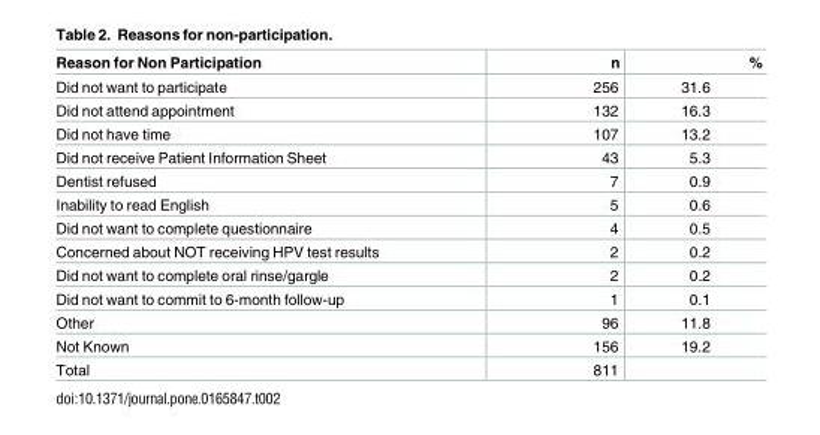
<table><thead><tr><td>Reason for Non Participation</td><td>n</td><td>%</td></tr></thead><tbody><tr><td>Did not want to participate</td><td>256</td><td>31.6</td></tr><tr><td>Did not attend appointment</td><td>132</td><td>16.3</td></tr><tr><td>Did not have time</td><td>107</td><td>13.2</td></tr><tr><td>Did not receive Patient Information Sheet</td><td>43</td><td>5.3</td></tr><tr><td>Dentist refused</td><td>7</td><td>0.9</td></tr><tr><td>Inability to read English</td><td>5</td><td>0.6</td></tr><tr><td>Did not want to complete questionnaire</td><td>4</td><td>0.5</td></tr><tr><td>Concerned about NOT receiving HPV test results</td><td>2</td><td>0.2</td></tr><tr><td>Did not want to complete oral rinse/gargle</td><td>2</td><td>0.2</td></tr><tr><td>Did not want to commit to 6-month follow-up</td><td>1</td><td>0.1</td></tr><tr><td>Other</td><td>96</td><td>11.8</td></tr><tr><td>Not Known</td><td>156</td><td>19.2</td></tr><tr><td>Total</td><td>811</td><td></td></tr></tbody></table>